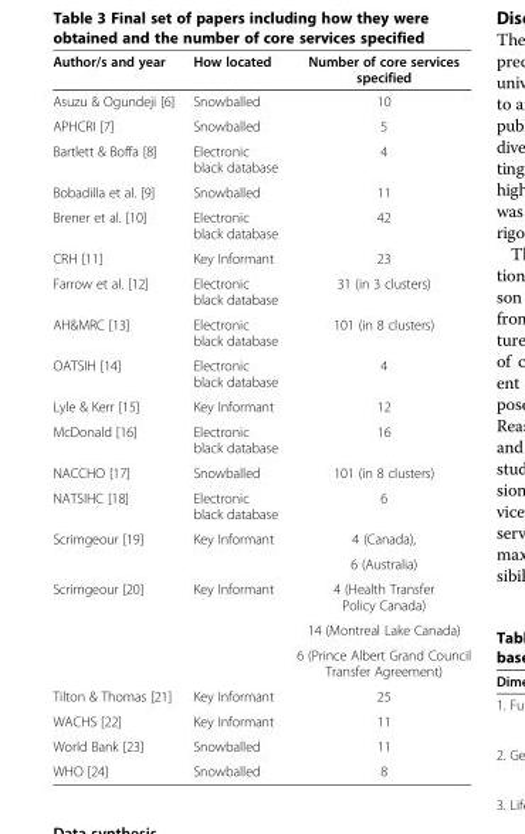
<table><thead><tr><td>Author/s and year</td><td>How located</td><td>Number of core services specified</td></tr></thead><tbody><tr><td>Asuzu &amp; Ogundeji [6]</td><td>Snowballed</td><td>10</td></tr><tr><td>APHCRI [7]</td><td>Snowballed</td><td>5</td></tr><tr><td>Bartlett &amp; Boffa [8]</td><td>Electronic black database</td><td>4</td></tr><tr><td>Bobadilla et al. [9]</td><td>Snowballed</td><td>11</td></tr><tr><td>Brener et al. [10]</td><td>Electronic black database</td><td>42</td></tr><tr><td>CRH [11]</td><td>Key Informant</td><td>23</td></tr><tr><td>Farrow et al. [12]</td><td>Electronic black database</td><td>31 (in 3 clusters)</td></tr><tr><td>AH&amp;MRC [13]</td><td>Electronic black database</td><td>101 (in 8 clusters)</td></tr><tr><td>OATSIH [14]</td><td>Electronic black database</td><td>4</td></tr><tr><td>Lyle &amp; Kerr [15]</td><td>Key Informant</td><td>12</td></tr><tr><td>McDonald [16]</td><td>Electronic black database</td><td>16</td></tr><tr><td>NACCHO [17]</td><td>Snowballed</td><td>101 (in 8 clusters)</td></tr><tr><td>NATSIHC [18]</td><td>Electronic black database</td><td>6</td></tr><tr><td rowspan="2">Scrimgeour [19]</td><td rowspan="2">Key Informant</td><td>4 (Canada),</td></tr><tr><td>6 (Australia)</td></tr><tr><td rowspan="3">Scrimgeour [20]</td><td rowspan="3">Key Informant</td><td>4 (Health Transfer Policy Canada)</td></tr><tr><td>14 (Montreal Lake Canada)</td></tr><tr><td>6 (Prince Albert Grand Council Transfer Agreement)</td></tr><tr><td>Tilton &amp; Thomas [21]</td><td>Key Informant</td><td>25</td></tr><tr><td>WACHS [22]</td><td>Key Informant</td><td>11</td></tr><tr><td>World Bank [23]</td><td>Snowballed</td><td>11</td></tr><tr><td>WHO [24]</td><td>Snowballed</td><td>8</td></tr></tbody></table>